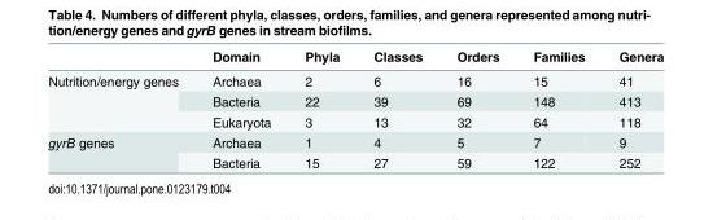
<table><thead><tr><td></td><td>Domain</td><td>Phyla</td><td>Classes</td><td>Orders</td><td>Families</td><td>Genera</td></tr></thead><tbody><tr><td rowspan="3">Nutrition/energy genes</td><td>Archaea</td><td>2</td><td>6</td><td>16</td><td>15</td><td>41</td></tr><tr><td>Bacteria</td><td>22</td><td>39</td><td>69</td><td>148</td><td>413</td></tr><tr><td>Eukaryota</td><td>3</td><td>13</td><td>32</td><td>64</td><td>118</td></tr><tr><td rowspan="2">gyrB genes</td><td>Archaea</td><td>1</td><td>4</td><td>5</td><td>7</td><td>9</td></tr><tr><td>Bacteria</td><td>15</td><td>27</td><td>59</td><td>122</td><td>252</td></tr></tbody></table>